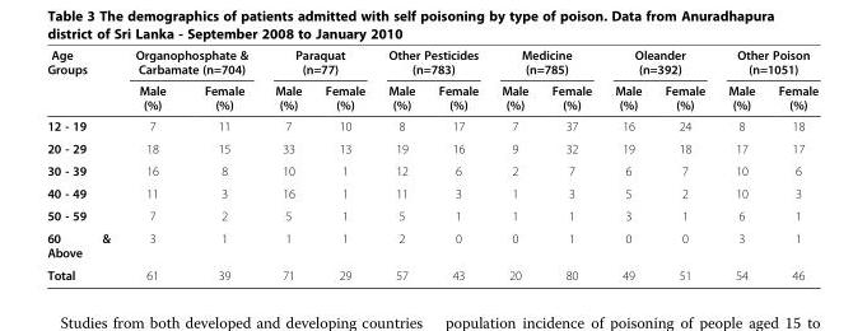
<table><thead><tr><td rowspan="2">Age Groups</td><td colspan="2">Organophosphate &amp; Carbamate (n=704)</td><td colspan="2">Paraquat (n=77)</td><td colspan="2">Other Pesticides (n=783)</td><td colspan="2">Medicine (n=785)</td><td colspan="2">Oleander (n=392)</td><td colspan="2">Other Poison (n=1051)</td></tr><tr><td>Male (%)</td><td>Female (%)</td><td>Male (%)</td><td>Female (%)</td><td>Male (%)</td><td>Female (%)</td><td>Male (%)</td><td>Female (%)</td><td>Male (%)</td><td>Female (%)</td><td>Male (%)</td><td>Female (%)</td></tr></thead><tbody><tr><td>12 - 19</td><td>7</td><td>11</td><td>7</td><td>10</td><td>8</td><td>17</td><td>7</td><td>37</td><td>16</td><td>24</td><td>8</td><td>18</td></tr><tr><td>20 - 29</td><td>18</td><td>15</td><td>33</td><td>13</td><td>19</td><td>16</td><td>9</td><td>32</td><td>19</td><td>18</td><td>17</td><td>17</td></tr><tr><td>30 - 39</td><td>16</td><td>8</td><td>10</td><td>1</td><td>12</td><td>6</td><td>2</td><td>7</td><td>6</td><td>7</td><td>10</td><td>6</td></tr><tr><td>40 - 49</td><td>11</td><td>3</td><td>16</td><td>1</td><td>11</td><td>3</td><td>1</td><td>3</td><td>5</td><td>2</td><td>10</td><td>3</td></tr><tr><td>50 - 59</td><td>7</td><td>2</td><td>5</td><td>1</td><td>5</td><td>1</td><td>1</td><td>1</td><td>3</td><td>1</td><td>6</td><td>1</td></tr><tr><td>60 &amp; Above</td><td>3</td><td>1</td><td>1</td><td>1</td><td>2</td><td>0</td><td>0</td><td>1</td><td>0</td><td>0</td><td>3</td><td>1</td></tr><tr><td>Total</td><td>61</td><td>39</td><td>71</td><td>29</td><td>57</td><td>43</td><td>20</td><td>80</td><td>49</td><td>51</td><td>54</td><td>46</td></tr></tbody></table>